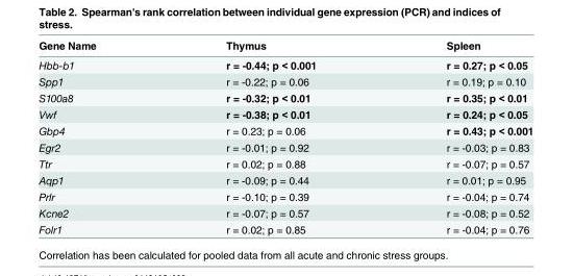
<table><thead><tr><td>Gene Name</td><td>Thymus</td><td>Spleen</td></tr></thead><tbody><tr><td>Hbb-b1</td><td>r = -0.44; p &lt; 0.001</td><td>r = 0.27; p &lt; 0.05</td></tr><tr><td>Spp1</td><td>r = -0.22; p = 0.06</td><td>r = 0.19; p = 0.10</td></tr><tr><td>S100a8</td><td>r = -0.32; p &lt; 0.01</td><td>r = 0.35; p &lt; 0.01</td></tr><tr><td>Vwf</td><td>r = -0.38; p &lt; 0.01</td><td>r = 0.24; p &lt; 0.05</td></tr><tr><td>Gbp4</td><td>r = 0.23; p = 0.06</td><td>r = 0.43; p &lt; 0.001</td></tr><tr><td>Egr2</td><td>r = -0.01; p = 0.92</td><td>r = -0.03; p = 0.83</td></tr><tr><td>Ttr</td><td>r = 0.02; p = 0.88</td><td>r = -0.07; p = 0.57</td></tr><tr><td>Aqp1</td><td>r = -0.09; p = 0.44</td><td>r = 0.01; p = 0.95</td></tr><tr><td>Prlr</td><td>r = -0.10; p = 0.39</td><td>r = -0.04; p = 0.74</td></tr><tr><td>Kcne2</td><td>r = -0.07; p = 0.57</td><td>r = -0.08; p = 0.52</td></tr><tr><td>Folr1</td><td>r = 0.02; p = 0.85</td><td>r = -0.04; p = 0.76</td></tr></tbody></table>